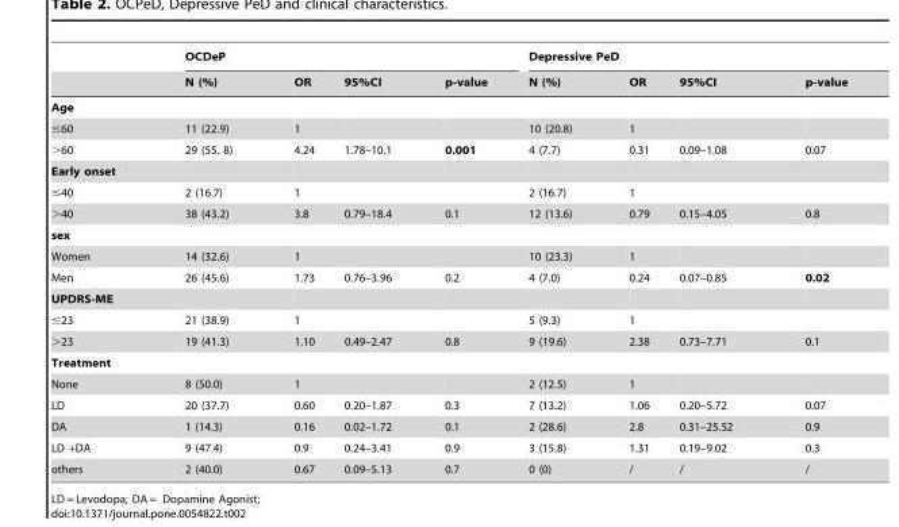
<table><thead><tr><td rowspan="2"></td><td colspan="4">OCDeP</td><td colspan="4">Depressive PeD</td></tr><tr><td>N (%)</td><td>OR</td><td>95%CI</td><td>p-value</td><td>N (%)</td><td>OR</td><td>95%CI</td><td>p-value</td></tr></thead><tbody><tr><td colspan="9">Age</td></tr><tr><td>≤60</td><td>11 (22.9)</td><td>1</td><td></td><td></td><td>10 (20.8)</td><td>1</td><td></td><td></td></tr><tr><td>&gt;60</td><td>29 (55. 8)</td><td>4.24</td><td>1.78–10.1</td><td>0.001</td><td>4 (7.7)</td><td>0.31</td><td>0.09–1.08</td><td>0.07</td></tr><tr><td colspan="9">Early onset</td></tr><tr><td>≤40</td><td>2 (16.7)</td><td>1</td><td></td><td></td><td>2 (16.7)</td><td>1</td><td></td><td></td></tr><tr><td>&gt;40</td><td>38 (43.2)</td><td>3.8</td><td>0.79–18.4</td><td>0.1</td><td>12 (13.6)</td><td>0.79</td><td>0.15–4.05</td><td>0.8</td></tr><tr><td colspan="9">sex</td></tr><tr><td>Women</td><td>14 (32.6)</td><td>1</td><td></td><td></td><td>10 (23.3)</td><td>1</td><td></td><td></td></tr><tr><td>Men</td><td>26 (45.6)</td><td>1.73</td><td>0.76–3.96</td><td>0.2</td><td>4 (7.0)</td><td>0.24</td><td>0.07–0.85</td><td>0.02</td></tr><tr><td colspan="9">UPDRS-ME</td></tr><tr><td>≤23</td><td>21 (38.9)</td><td>1</td><td></td><td></td><td>5 (9.3)</td><td>1</td><td></td><td></td></tr><tr><td>&gt;23</td><td>19 (41.3)</td><td>1.10</td><td>0.49–2.47</td><td>0.8</td><td>9 (19.6)</td><td>2.38</td><td>0.73–7.71</td><td>0.1</td></tr><tr><td colspan="9">Treatment</td></tr><tr><td>None</td><td>8 (50.0)</td><td>1</td><td></td><td></td><td>2 (12.5)</td><td>1</td><td></td><td></td></tr><tr><td>LD</td><td>20 (37.7)</td><td>0.60</td><td>0.20–1.87</td><td>0.3</td><td>7 (13.2)</td><td>1.06</td><td>0.20–5.72</td><td>0.07</td></tr><tr><td>DA</td><td>1 (14.3)</td><td>0.16</td><td>0.02–1.72</td><td>0.1</td><td>2 (28.6)</td><td>2.8</td><td>0.31–25.52</td><td>0.9</td></tr><tr><td>LD +DA</td><td>9 (47.4)</td><td>0.9</td><td>0.24–3.41</td><td>0.9</td><td>3 (15.8)</td><td>1.31</td><td>0.19–9.02</td><td>0.3</td></tr><tr><td>others</td><td>2 (40.0)</td><td>0.67</td><td>0.09–5.13</td><td>0.7</td><td>0 (0)</td><td>/</td><td>/</td><td>/</td></tr></tbody></table>